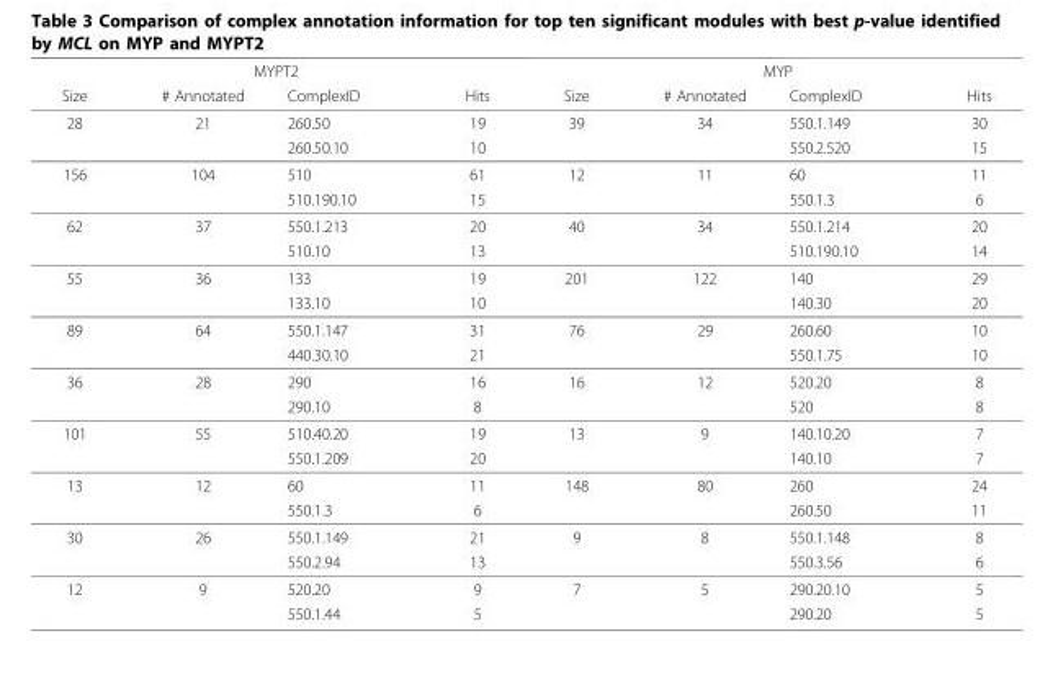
<table><thead><tr><td colspan="4">MYPT2</td><td colspan="4">MYP</td></tr><tr><td>Size</td><td># Annotated</td><td>ComplexID</td><td>Hits</td><td>Size</td><td># Annotated</td><td>ComplexID</td><td>Hits</td></tr></thead><tbody><tr><td rowspan="2">28</td><td rowspan="2">21</td><td>260.50</td><td>19</td><td rowspan="2">39</td><td rowspan="2">34</td><td>550.1.149</td><td>30</td></tr><tr><td>260.50.10</td><td>10</td><td>550.2.520</td><td>15</td></tr><tr><td rowspan="2">156</td><td rowspan="2">104</td><td>510</td><td>61</td><td rowspan="2">12</td><td rowspan="2">11</td><td>60</td><td>11</td></tr><tr><td>510.190.10</td><td>15</td><td>550.1.3</td><td>6</td></tr><tr><td rowspan="2">62</td><td rowspan="2">37</td><td>550.1.213</td><td>20</td><td rowspan="2">40</td><td rowspan="2">34</td><td>550.1.214</td><td>20</td></tr><tr><td>510.10</td><td>13</td><td>510.190.10</td><td>14</td></tr><tr><td rowspan="2">55</td><td rowspan="2">36</td><td>133</td><td>19</td><td rowspan="2">201</td><td rowspan="2">122</td><td>140</td><td>29</td></tr><tr><td>133.10</td><td>10</td><td>140.30</td><td>20</td></tr><tr><td rowspan="2">89</td><td rowspan="2">64</td><td>550.1.147</td><td>31</td><td rowspan="2">76</td><td rowspan="2">29</td><td>260.60</td><td>10</td></tr><tr><td>440.30.10</td><td>21</td><td>550.1.75</td><td>10</td></tr><tr><td rowspan="2">36</td><td rowspan="2">28</td><td>290</td><td>16</td><td rowspan="2">16</td><td rowspan="2">12</td><td>520.20</td><td>8</td></tr><tr><td>290.10</td><td>8</td><td>520</td><td>8</td></tr><tr><td rowspan="2">101</td><td rowspan="2">55</td><td>510.40.20</td><td>19</td><td rowspan="2">13</td><td rowspan="2">9</td><td>140.10.20</td><td>7</td></tr><tr><td>550.1.209</td><td>20</td><td>140.10</td><td>7</td></tr><tr><td rowspan="2">13</td><td rowspan="2">12</td><td>60</td><td>11</td><td rowspan="2">148</td><td rowspan="2">80</td><td>260</td><td>24</td></tr><tr><td>550.1.3</td><td>6</td><td>260.50</td><td>11</td></tr><tr><td rowspan="2">30</td><td rowspan="2">26</td><td>550.1.149</td><td>21</td><td rowspan="2">9</td><td rowspan="2">8</td><td>550.1.148</td><td>8</td></tr><tr><td>550.2.94</td><td>13</td><td>550.3.56</td><td>6</td></tr><tr><td rowspan="2">12</td><td rowspan="2">9</td><td>520.20</td><td>9</td><td rowspan="2">7</td><td rowspan="2">5</td><td>290.20.10</td><td>5</td></tr><tr><td>550.1.44</td><td>5</td><td>290.20</td><td>5</td></tr></tbody></table>